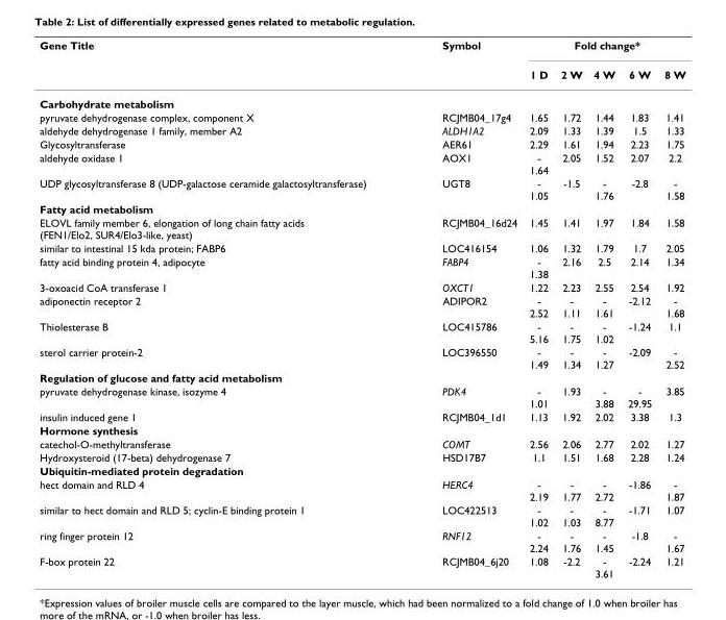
<table><thead><tr><td rowspan="2">Gene Title</td><td rowspan="2">Symbol</td><td colspan="5">Fold change*</td></tr><tr><td>1 D</td><td>2 W</td><td>4 W</td><td>6 W</td><td>8 W</td></tr></thead><tbody><tr><td colspan="7">Carbohydrate metabolism</td></tr><tr><td>pyruvate dehydrogenase complex, component X</td><td>RCJMB04_17g4</td><td>1.65</td><td>1.72</td><td>1.44</td><td>1.83</td><td>1.41</td></tr><tr><td>aldehyde dehydrogenase 1 family, member A2</td><td>ALDH1A2</td><td>2.09</td><td>1.33</td><td>1.39</td><td>1.5</td><td>1.33</td></tr><tr><td>Glycosyltransferase</td><td>AER61</td><td>2.29</td><td>1.61</td><td>1.94</td><td>2.23</td><td>1.75</td></tr><tr><td>aldehyde oxidase 1</td><td>AOX1</td><td>- 1.64</td><td>2.05</td><td>1.52</td><td>2.07</td><td>2.2</td></tr><tr><td>UDP glycosyltransferase 8 (UDP-galactose ceramide galactosyltransferase)</td><td>UGT8</td><td>- 1.05</td><td>-1.5</td><td>- 1.76</td><td>-2.8</td><td>- 1.58</td></tr><tr><td colspan="7">Fatty acid metabolism</td></tr><tr><td>ELOVL family member 6, elongation of long chain fatty acids (FEN1/Elo2, SUR4/Elo3-like, yeast)</td><td>RCJMB04_16d24</td><td>1.45</td><td>1.41</td><td>1.97</td><td>1.84</td><td>1.58</td></tr><tr><td>similar to intestinal 15 kda protein; FABP6</td><td>LOC416154</td><td>1.06</td><td>1.32</td><td>1.79</td><td>1.7</td><td>2.05</td></tr><tr><td>fatty acid binding protein 4, adipocyte</td><td>FABP4</td><td>- 1.38</td><td>2.16</td><td>2.5</td><td>2.14</td><td>1.34</td></tr><tr><td>3-oxoacid CoA transferase 1</td><td>OXCT1</td><td>1.22</td><td>2.23</td><td>2.55</td><td>2.54</td><td>1.92</td></tr><tr><td>adiponectin receptor 2</td><td>ADIPOR2</td><td>- 2.52</td><td>- 1.11</td><td>- 1.61</td><td>-2.12</td><td>- 1.68</td></tr><tr><td>Thiolesterase B</td><td>LOC415786</td><td>- 5.16</td><td>- 1.75</td><td>- 1.02</td><td>-1.24</td><td>1.1</td></tr><tr><td>sterol carrier protein-2</td><td>LOC396550</td><td>- 1.49</td><td>- 1.34</td><td>- 1.27</td><td>-2.09</td><td>- 2.52</td></tr><tr><td colspan="7">Regulation of glucose and fatty acid metabolism</td></tr><tr><td>pyruvate dehydrogenase kinase, isozyme 4</td><td>PDK4</td><td>- 1.01</td><td>1.93</td><td>- 3.88</td><td>- 29.95</td><td>3.85</td></tr><tr><td>insulin induced gene 1</td><td>RCJMB04_1d1</td><td>1.13</td><td>1.92</td><td>2.02</td><td>3.38</td><td>1.3</td></tr><tr><td colspan="7">Hormone synthesis</td></tr><tr><td>catechol-O-methyltransferase</td><td>COMT</td><td>2.56</td><td>2.06</td><td>2.77</td><td>2.02</td><td>1.27</td></tr><tr><td>Hydroxysteroid (17-beta) dehydrogenase 7</td><td>HSD17B7</td><td>1.1</td><td>1.51</td><td>1.68</td><td>2.28</td><td>1.24</td></tr><tr><td colspan="7">Ubiquitin-mediated protein degradation</td></tr><tr><td>hect domain and RLD 4</td><td>HERC4</td><td>- 2.19</td><td>- 1.77</td><td>- 2.72</td><td>-1.86</td><td>- 1.87</td></tr><tr><td>similar to hect domain and RLD 5; cyclin-E binding protein 1</td><td>LOC422513</td><td>- 1.02</td><td>- 1.03</td><td>- 8.77</td><td>-1.71</td><td>1.07</td></tr><tr><td>ring finger protein 12</td><td>RNF12</td><td>- 2.24</td><td>- 1.76</td><td>- 1.45</td><td>-1.8</td><td>- 1.67</td></tr><tr><td>F-box protein 22</td><td>RCJMB04_6j20</td><td>1.08</td><td>-2.2</td><td>- 3.61</td><td>-2.24</td><td>1.21</td></tr></tbody></table>